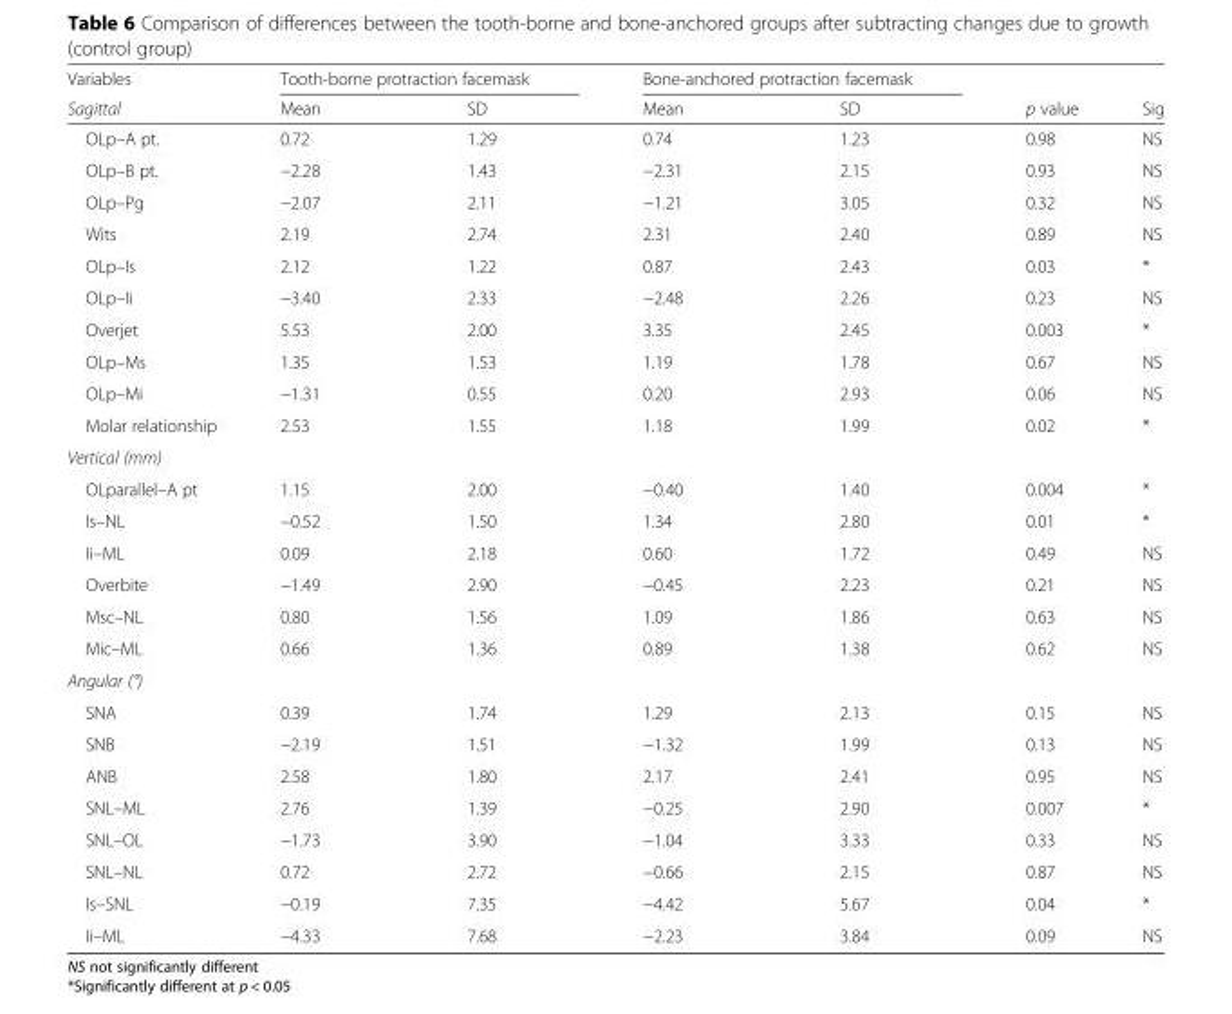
<table><thead><tr><td rowspan="2">Variables Sagittal</td><td colspan="2">Tooth-borne protraction facemask</td><td colspan="2">Bone-anchored protraction facemask</td><td rowspan="2">p value</td><td rowspan="2">Sig</td></tr><tr><td>Mean</td><td>SD</td><td>Mean</td><td>SD</td></tr></thead><tbody><tr><td>OLp–A pt.</td><td>0.72</td><td>1.29</td><td>0.74</td><td>1.23</td><td>0.98</td><td>NS</td></tr><tr><td>OLp–B pt.</td><td>−2.28</td><td>1.43</td><td>−2.31</td><td>2.15</td><td>0.93</td><td>NS</td></tr><tr><td>OLp–Pg</td><td>−2.07</td><td>2.11</td><td>−1.21</td><td>3.05</td><td>0.32</td><td>NS</td></tr><tr><td>Wits</td><td>2.19</td><td>2.74</td><td>2.31</td><td>2.40</td><td>0.89</td><td>NS</td></tr><tr><td>OLp–Is</td><td>2.12</td><td>1.22</td><td>0.87</td><td>2.43</td><td>0.03</td><td>*</td></tr><tr><td>OLp–Ii</td><td>−3.40</td><td>2.33</td><td>−2.48</td><td>2.26</td><td>0.23</td><td>NS</td></tr><tr><td>Overjet</td><td>5.53</td><td>2.00</td><td>3.35</td><td>2.45</td><td>0.003</td><td>*</td></tr><tr><td>OLp–Ms</td><td>1.35</td><td>1.53</td><td>1.19</td><td>1.78</td><td>0.67</td><td>NS</td></tr><tr><td>OLp–Mi</td><td>−1.31</td><td>0.55</td><td>0.20</td><td>2.93</td><td>0.06</td><td>NS</td></tr><tr><td>Molar relationship</td><td>2.53</td><td>1.55</td><td>1.18</td><td>1.99</td><td>0.02</td><td>*</td></tr><tr><td colspan="7">Vertical (mm)</td></tr><tr><td>OLparallel–A pt</td><td>1.15</td><td>2.00</td><td>−0.40</td><td>1.40</td><td>0.004</td><td>*</td></tr><tr><td>Is–NL</td><td>−0.52</td><td>1.50</td><td>1.34</td><td>2.80</td><td>0.01</td><td>*</td></tr><tr><td>Ii–ML</td><td>0.09</td><td>2.18</td><td>0.60</td><td>1.72</td><td>0.49</td><td>NS</td></tr><tr><td>Overbite</td><td>−1.49</td><td>2.90</td><td>−0.45</td><td>2.23</td><td>0.21</td><td>NS</td></tr><tr><td>Msc–NL</td><td>0.80</td><td>1.56</td><td>1.09</td><td>1.86</td><td>0.63</td><td>NS</td></tr><tr><td>Mic–ML</td><td>0.66</td><td>1.36</td><td>0.89</td><td>1.38</td><td>0.62</td><td>NS</td></tr><tr><td colspan="7">Angular (°)</td></tr><tr><td>SNA</td><td>0.39</td><td>1.74</td><td>1.29</td><td>2.13</td><td>0.15</td><td>NS</td></tr><tr><td>SNB</td><td>−2.19</td><td>1.51</td><td>−1.32</td><td>1.99</td><td>0.13</td><td>NS</td></tr><tr><td>ANB</td><td>2.58</td><td>1.80</td><td>2.17</td><td>2.41</td><td>0.95</td><td>NS</td></tr><tr><td>SNL–ML</td><td>2.76</td><td>1.39</td><td>−0.25</td><td>2.90</td><td>0.007</td><td>*</td></tr><tr><td>SNL–OL</td><td>−1.73</td><td>3.90</td><td>−1.04</td><td>3.33</td><td>0.33</td><td>NS</td></tr><tr><td>SNL–NL</td><td>0.72</td><td>2.72</td><td>−0.66</td><td>2.15</td><td>0.87</td><td>NS</td></tr><tr><td>Is–SNL</td><td>−0.19</td><td>7.35</td><td>−4.42</td><td>5.67</td><td>0.04</td><td>*</td></tr><tr><td>Ii–ML</td><td>−4.33</td><td>7.68</td><td>−2.23</td><td>3.84</td><td>0.09</td><td>NS</td></tr></tbody></table>